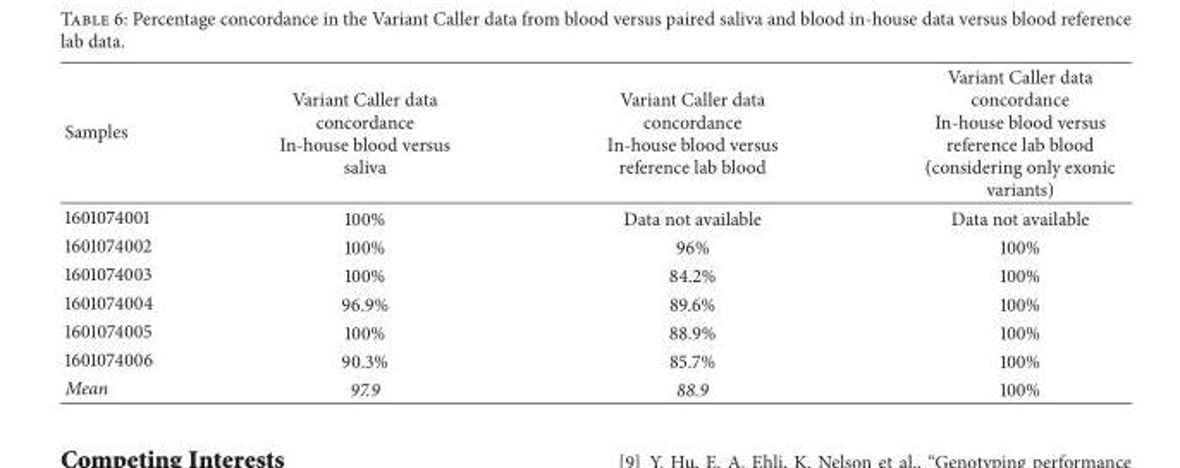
<table><thead><tr><td>Samples</td><td>Variant Caller data concordance In-house blood versus saliva</td><td>Variant Caller data concordance In-house blood versus reference lab blood</td><td>Variant Caller data concordance In-house blood versus reference lab blood (considering only exonic variants)</td></tr></thead><tbody><tr><td>1601074001</td><td>100%</td><td>Data not available</td><td>Data not available</td></tr><tr><td>1601074002</td><td>100%</td><td>96%</td><td>100%</td></tr><tr><td>1601074003</td><td>100%</td><td>84.2%</td><td>100%</td></tr><tr><td>1601074004</td><td>96.9%</td><td>89.6%</td><td>100%</td></tr><tr><td>1601074005</td><td>100%</td><td>88.9%</td><td>100%</td></tr><tr><td>1601074006</td><td>90.3%</td><td>85.7%</td><td>100%</td></tr><tr><td>Mean</td><td>97.9</td><td>88.9</td><td>100%</td></tr></tbody></table>